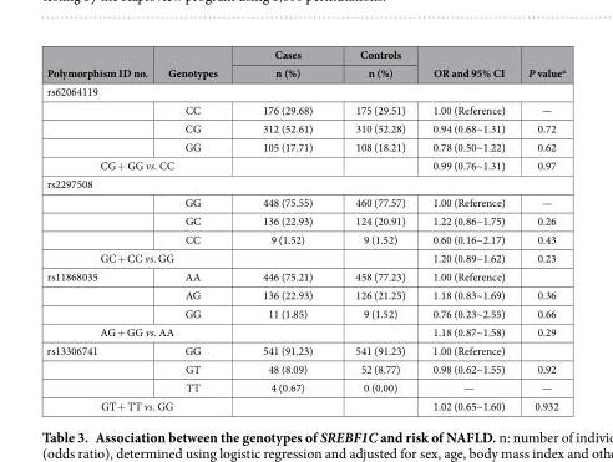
<table><thead><tr><td rowspan="2">Polymorphism ID no.</td><td rowspan="2">Genotypes</td><td rowspan="2">Cases n (%)</td><td rowspan="2">Controls n (%)</td><td rowspan="2">OR and 95% CI</td><td rowspan="2">P value<sup>a</sup></td></tr><tr></tr></thead><tbody><tr><td colspan="6">rs62064119</td></tr><tr><td></td><td>CC</td><td>176 (29.68)</td><td>175 (29.51)</td><td>1.00 (Reference)</td><td>—</td></tr><tr><td></td><td>CG</td><td>312 (52.61)</td><td>310 (52.28)</td><td>0.94 (0.68~1.31)</td><td>0.72</td></tr><tr><td></td><td>GG</td><td>105 (17.71)</td><td>108 (18.21)</td><td>0.78 (0.50~1.22)</td><td>0.62</td></tr><tr><td colspan="2">CG + GG vs. CC</td><td></td><td></td><td>0.99 (0.76~1.31)</td><td>0.97</td></tr><tr><td colspan="6">rs2297508</td></tr><tr><td></td><td>GG</td><td>448 (75.55)</td><td>460 (77.57)</td><td>1.00 (Reference)</td><td>—</td></tr><tr><td></td><td>GC</td><td>136 (22.93)</td><td>124 (20.91)</td><td>1.22 (0.86~1.75)</td><td>0.26</td></tr><tr><td></td><td>CC</td><td>9 (1.52)</td><td>9 (1.52)</td><td>0.60 (0.16~2.17)</td><td>0.43</td></tr><tr><td colspan="2">GC + CC vs. GG</td><td></td><td></td><td>1.20 (0.89~1.62)</td><td>0.23</td></tr><tr><td rowspan="3">rs11868035</td><td>AA</td><td>446 (75.21)</td><td>458 (77.23)</td><td>1.00 (Reference)</td><td></td></tr><tr><td>AG</td><td>136 (22.93)</td><td>126 (21.25)</td><td>1.18 (0.83~1.69)</td><td>0.36</td></tr><tr><td>GG</td><td>11 (1.85)</td><td>9 (1.52)</td><td>0.76 (0.23~2.55)</td><td>0.66</td></tr><tr><td colspan="2">AG + GG vs. AA</td><td></td><td></td><td>1.18 (0.87~1.58)</td><td>0.29</td></tr><tr><td rowspan="3">rs13306741</td><td>GG</td><td>541 (91.23)</td><td>541 (91.23)</td><td>1.00 (Reference)</td><td></td></tr><tr><td>GT</td><td>48 (8.09)</td><td>52 (8.77)</td><td>0.98 (0.62~1.55)</td><td>0.92</td></tr><tr><td>TT</td><td>4 (0.67)</td><td>0 (0.00)</td><td>—</td><td>—</td></tr><tr><td colspan="2">GT + TT vs. GG</td><td></td><td></td><td>1.02 (0.65~1.60)</td><td>0.932</td></tr></tbody></table>